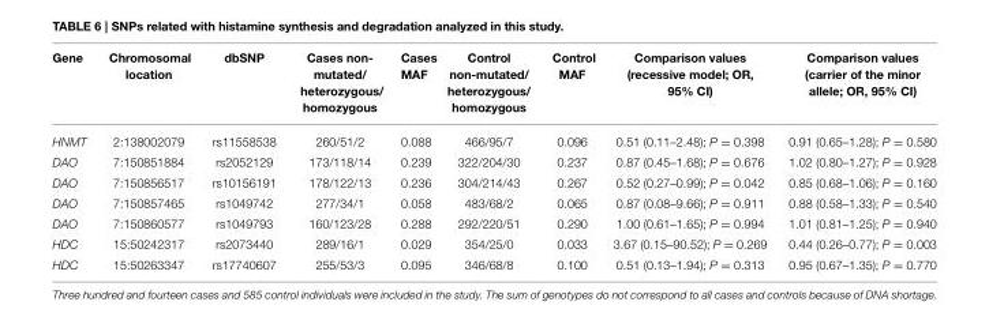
<table><thead><tr><td>Gene</td><td>Chromosomal location</td><td>dbSNP</td><td>Cases non- mutated/ heterozygous/ homozygous</td><td>Cases MAF</td><td>Control non-mutated/ heterozygous/ homozygous</td><td>Control MAF</td><td>Comparison values (recessive model; OR, 95% CI)</td><td>Comparison values (carrier of the minor allele; OR, 95% CI)</td></tr></thead><tbody><tr><td>HNMT</td><td>2:138002079</td><td>rs11558538</td><td>260/51/2</td><td>0.088</td><td>466/95/7</td><td>0.096</td><td>0.51 (0.11–2.48); P = 0.398</td><td>0.91 (0.65–1.28); P = 0.580</td></tr><tr><td>DAO</td><td>7:150851884</td><td>rs2052129</td><td>173/118/14</td><td>0.239</td><td>322/204/30</td><td>0.237</td><td>0.87 (0.45–1.68); P = 0.676</td><td>1.02 (0.80–1.27); P = 0.928</td></tr><tr><td>DAO</td><td>7:150856517</td><td>rs10156191</td><td>178/122/13</td><td>0.236</td><td>304/214/43</td><td>0.267</td><td>0.52 (0.27–0.99); P = 0.042</td><td>0.85 (0.68–1.06); P = 0.160</td></tr><tr><td>DAO</td><td>7:150857465</td><td>rs1049742</td><td>277/34/1</td><td>0.058</td><td>483/68/2</td><td>0.065</td><td>0.87 (0.08–9.66); P = 0.911</td><td>0.88 (0.58–1.33); P = 0.540</td></tr><tr><td>DAO</td><td>7:150860577</td><td>rs1049793</td><td>160/123/28</td><td>0.288</td><td>292/220/51</td><td>0.290</td><td>1.00 (0.61–1.65); P = 0.994</td><td>1.01 (0.81–1.25); P = 0.940</td></tr><tr><td>HDC</td><td>15:50242317</td><td>rs2073440</td><td>289/16/1</td><td>0.029</td><td>354/25/0</td><td>0.033</td><td>3.67 (0.15–90.52); P = 0.269</td><td>0.44 (0.26–0.77); P = 0.003</td></tr><tr><td>HDC</td><td>15:50263347</td><td>rs17740607</td><td>255/53/3</td><td>0.095</td><td>346/68/8</td><td>0.100</td><td>0.51 (0.13–1.94); P = 0.313</td><td>0.95 (0.67–1.35); P = 0.770</td></tr></tbody></table>